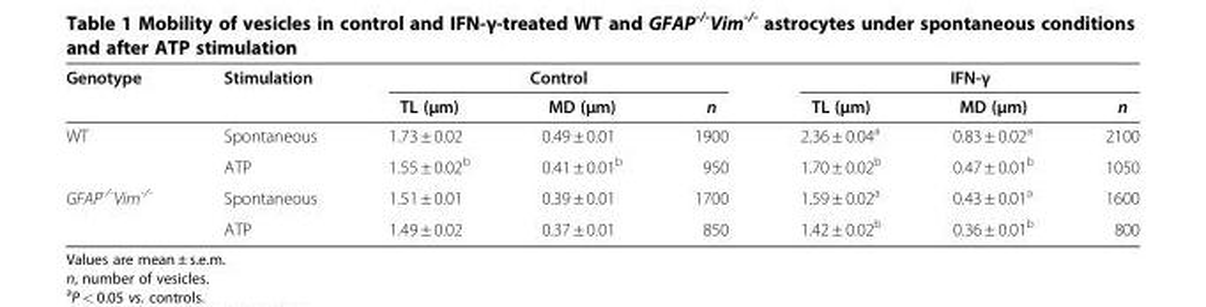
<table><thead><tr><td rowspan="2">Genotype</td><td rowspan="2">Stimulation</td><td colspan="3">Control</td><td colspan="3">IFN-γ</td></tr><tr><td>TL (μm)</td><td>MD (μm)</td><td>n</td><td>TL (μm)</td><td>MD (μm)</td><td>n</td></tr></thead><tbody><tr><td rowspan="2">WT</td><td>Spontaneous</td><td>1.73 ± 0.02</td><td>0.49 ± 0.01</td><td>1900</td><td>2.36 ± 0.04<sup>a</sup></td><td>0.83 ± 0.02<sup>a</sup></td><td>2100</td></tr><tr><td>ATP</td><td>1.55 ± 0.02<sup>b</sup></td><td>0.41 ± 0.01<sup>b</sup></td><td>950</td><td>1.70 ± 0.02<sup>b</sup></td><td>0.47 ± 0.01<sup>b</sup></td><td>1050</td></tr><tr><td rowspan="2">GFAP<sup>-/-</sup>Vim<sup>-/-</sup></td><td>Spontaneous</td><td>1.51 ± 0.01</td><td>0.39 ± 0.01</td><td>1700</td><td>1.59 ± 0.02<sup>a</sup></td><td>0.43 ± 0.01<sup>a</sup></td><td>1600</td></tr><tr><td>ATP</td><td>1.49 ± 0.02</td><td>0.37 ± 0.01</td><td>850</td><td>1.42 ± 0.02<sup>b</sup></td><td>0.36 ± 0.01<sup>b</sup></td><td>800</td></tr></tbody></table>